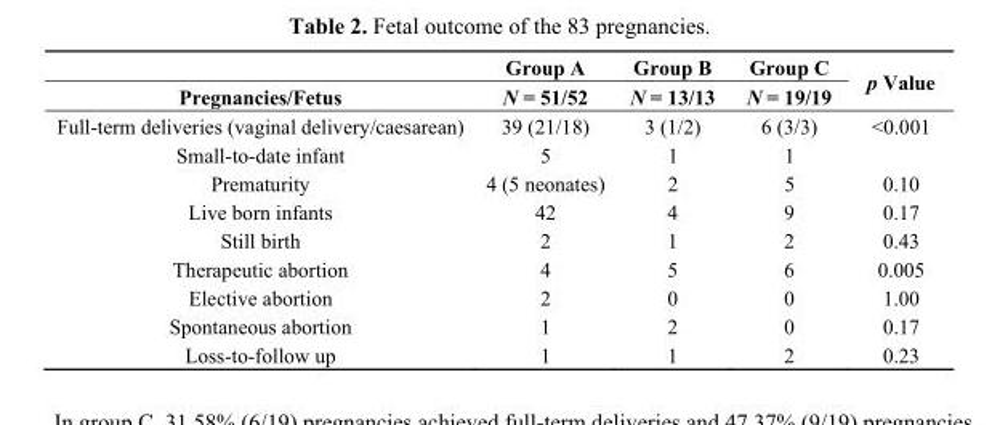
<table><thead><tr><td rowspan="2">Pregnancies/Fetus</td><td rowspan="2">Group A N = 51/52</td><td rowspan="2">Group B N = 13/13</td><td rowspan="2">Group C N = 19/19</td><td rowspan="2">p Value</td></tr><tr></tr></thead><tbody><tr><td>Full-term deliveries (vaginal delivery/caesarean)</td><td>39 (21/18)</td><td>3 (1/2)</td><td>6 (3/3)</td><td>&lt;0.001</td></tr><tr><td>Small-to-date infant</td><td>5</td><td>1</td><td>1</td><td></td></tr><tr><td>Prematurity</td><td>4 (5 neonates)</td><td>2</td><td>5</td><td>0.10</td></tr><tr><td>Live born infants</td><td>42</td><td>4</td><td>9</td><td>0.17</td></tr><tr><td>Still birth</td><td>2</td><td>1</td><td>2</td><td>0.43</td></tr><tr><td>Therapeutic abortion</td><td>4</td><td>5</td><td>6</td><td>0.005</td></tr><tr><td>Elective abortion</td><td>2</td><td>0</td><td>0</td><td>1.00</td></tr><tr><td>Spontaneous abortion</td><td>1</td><td>2</td><td>0</td><td>0.17</td></tr><tr><td>Loss-to-follow up</td><td>1</td><td>1</td><td>2</td><td>0.23</td></tr></tbody></table>